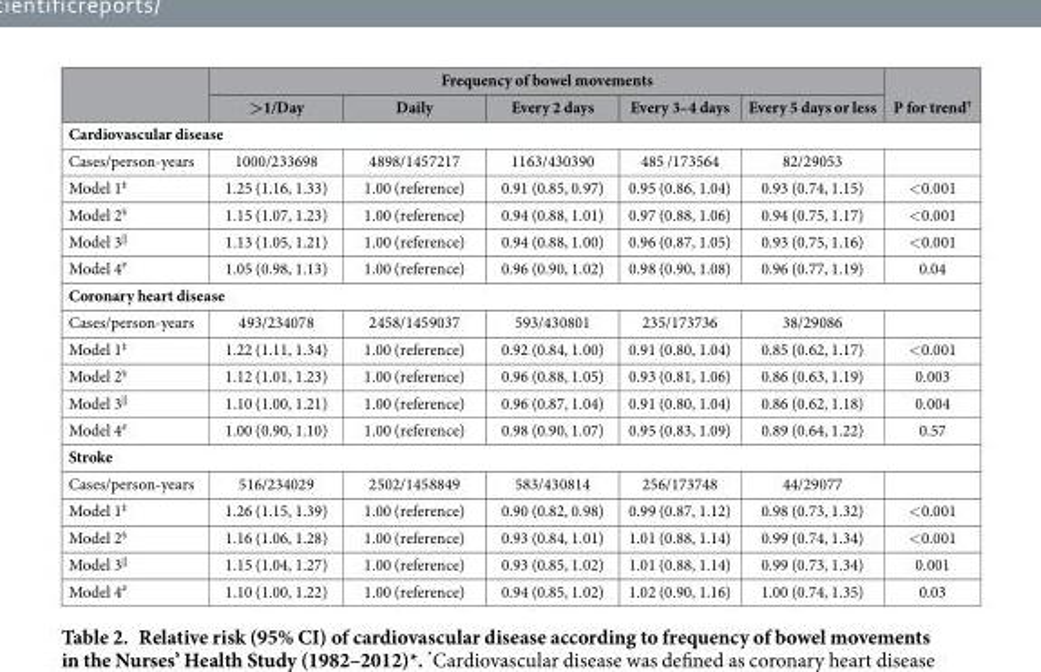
<table><thead><tr><td rowspan="2"></td><td colspan="5">Frequency of bowel movements</td><td rowspan="2">P for trend†</td></tr><tr><td>&gt;1/Day</td><td>Daily</td><td>Every 2 days</td><td>Every 3–4 days</td><td>Every 5 days or less</td></tr></thead><tbody><tr><td colspan="7">Cardiovascular disease</td></tr><tr><td>Cases/person-years</td><td>1000/233698</td><td>4898/1457217</td><td>1163/430390</td><td>485 /173564</td><td>82/29053</td><td></td></tr><tr><td>Model 1‡</td><td>1.25 (1.16, 1.33)</td><td>1.00 (reference)</td><td>0.91 (0.85, 0.97)</td><td>0.95 (0.86, 1.04)</td><td>0.93 (0.74, 1.15)</td><td>&lt; 0.001</td></tr><tr><td>Model 2§</td><td>1.15 (1.07, 1.23)</td><td>1.00 (reference)</td><td>0.94 (0.88, 1.01)</td><td>0.97 (0.88, 1.06)</td><td>0.94 (0.75, 1.17)</td><td>&lt; 0.001</td></tr><tr><td>Model 3||</td><td>1.13 (1.05, 1.21)</td><td>1.00 (reference)</td><td>0.94 (0.88, 1.00)</td><td>0.96 (0.87, 1.05)</td><td>0.93 (0.75, 1.16)</td><td>&lt; 0.001</td></tr><tr><td>Model 4#</td><td>1.05 (0.98, 1.13)</td><td>1.00 (reference)</td><td>0.96 (0.90, 1.02)</td><td>0.98 (0.90, 1.08)</td><td>0.96 (0.77, 1.19)</td><td>0.04</td></tr><tr><td colspan="7">Coronary heart disease</td></tr><tr><td>Cases/person-years</td><td>493/234078</td><td>2458/1459037</td><td>593/430801</td><td>235/173736</td><td>38/29086</td><td></td></tr><tr><td>Model 1‡</td><td>1.22 (1.11, 1.34)</td><td>1.00 (reference)</td><td>0.92 (0.84, 1.00)</td><td>0.91 (0.80, 1.04)</td><td>0.85 (0.62, 1.17)</td><td>&lt; 0.001</td></tr><tr><td>Model 2§</td><td>1.12 (1.01, 1.23)</td><td>1.00 (reference)</td><td>0.96 (0.88, 1.05)</td><td>0.93 (0.81, 1.06)</td><td>0.86 (0.63, 1.19)</td><td>0.003</td></tr><tr><td>Model 3||</td><td>1.10 (1.00, 1.21)</td><td>1.00 (reference)</td><td>0.96 (0.87, 1.04)</td><td>0.91 (0.80, 1.04)</td><td>0.86 (0.62, 1.18)</td><td>0.004</td></tr><tr><td>Model 4#</td><td>1.00 (0.90, 1.10)</td><td>1.00 (reference)</td><td>0.98 (0.90, 1.07)</td><td>0.95 (0.83, 1.09)</td><td>0.89 (0.64, 1.22)</td><td>0.57</td></tr><tr><td colspan="7">Stroke</td></tr><tr><td>Cases/person-years</td><td>516/234029</td><td>2502/1458849</td><td>583/430814</td><td>256/173748</td><td>44/29077</td><td></td></tr><tr><td>Model 1‡</td><td>1.26 (1.15, 1.39)</td><td>1.00 (reference)</td><td>0.90 (0.82, 0.98)</td><td>0.99 (0.87, 1.12)</td><td>0.98 (0.73, 1.32)</td><td>&lt; 0.001</td></tr><tr><td>Model 2§</td><td>1.16 (1.06, 1.28)</td><td>1.00 (reference)</td><td>0.93 (0.84, 1.01)</td><td>1.01 (0.88, 1.14)</td><td>0.99 (0.74, 1.34)</td><td>&lt; 0.001</td></tr><tr><td>Model 3||</td><td>1.15 (1.04, 1.27)</td><td>1.00 (reference)</td><td>0.93 (0.85, 1.02)</td><td>1.01 (0.88, 1.14)</td><td>0.99 (0.73, 1.34)</td><td>0.001</td></tr><tr><td>Model 4#</td><td>1.10 (1.00, 1.22)</td><td>1.00 (reference)</td><td>0.94 (0.85, 1.02)</td><td>1.02 (0.90, 1.16)</td><td>1.00 (0.74, 1.35)</td><td>0.03</td></tr></tbody></table>